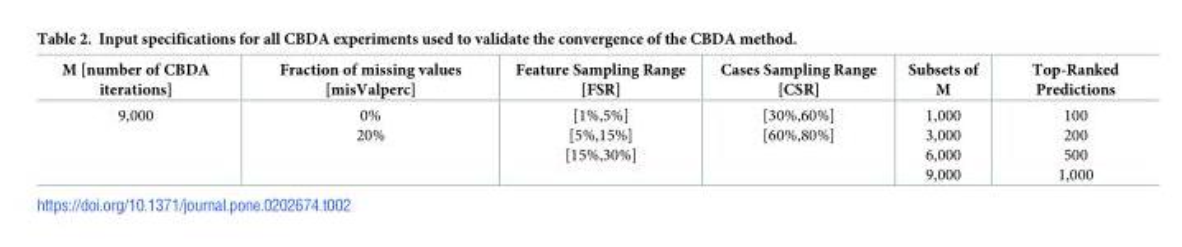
<table><thead><tr><td>M [number of CBDA iterations]</td><td>Fraction of missing values [misValperc]</td><td>Feature Sampling Range [FSR]</td><td>Cases Sampling Range [CSR]</td><td>Subsets of M</td><td>Top-Ranked Predictions</td></tr></thead><tbody><tr><td>9,000</td><td>0% 20%</td><td>[1%,5%] [5%,15%] [15%,30%]</td><td>[30%,60%] [60%,80%]</td><td>1,000 3,000 6,000 9,000</td><td>100 200 500 1,000</td></tr></tbody></table>